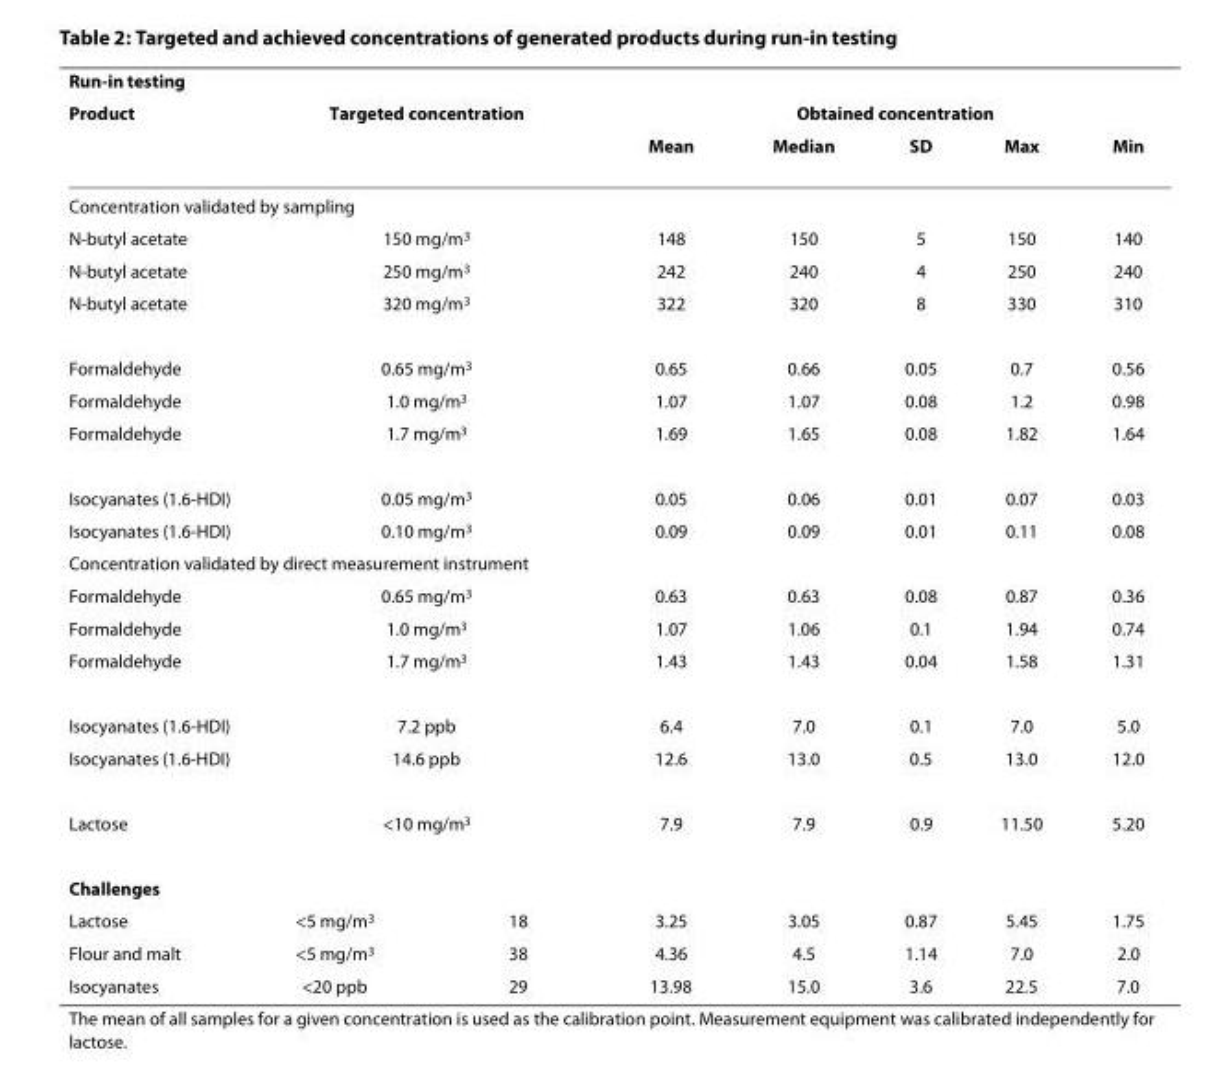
<table><thead><tr><td colspan="3">Run-in testing</td><td></td><td></td><td></td><td></td><td></td></tr><tr><td rowspan="2">Product</td><td colspan="2">Targeted concentration</td><td colspan="5">Obtained concentration</td></tr><tr><td></td><td></td><td>Mean</td><td>Median</td><td>SD</td><td>Max</td><td>Min</td></tr></thead><tbody><tr><td colspan="8">Concentration validated by sampling</td></tr><tr><td>N-butyl acetate</td><td colspan="2">150 mg/m<sup>3</sup></td><td>148</td><td>150</td><td>5</td><td>150</td><td>140</td></tr><tr><td>N-butyl acetate</td><td colspan="2">250 mg/m<sup>3</sup></td><td>242</td><td>240</td><td>4</td><td>250</td><td>240</td></tr><tr><td>N-butyl acetate</td><td colspan="2">320 mg/m<sup>3</sup></td><td>322</td><td>320</td><td>8</td><td>330</td><td>310</td></tr><tr><td>Formaldehyde</td><td colspan="2">0.65 mg/m<sup>3</sup></td><td>0.65</td><td>0.66</td><td>0.05</td><td>0.7</td><td>0.56</td></tr><tr><td>Formaldehyde</td><td colspan="2">1.0 mg/m<sup>3</sup></td><td>1.07</td><td>1.07</td><td>0.08</td><td>1.2</td><td>0.98</td></tr><tr><td>Formaldehyde</td><td colspan="2">1.7 mg/m<sup>3</sup></td><td>1.69</td><td>1.65</td><td>0.08</td><td>1.82</td><td>1.64</td></tr><tr><td>Isocyanates (1.6-HDI)</td><td colspan="2">0.05 mg/m<sup>3</sup></td><td>0.05</td><td>0.06</td><td>0.01</td><td>0.07</td><td>0.03</td></tr><tr><td>Isocyanates (1.6-HDI)</td><td colspan="2">0.10 mg/m<sup>3</sup></td><td>0.09</td><td>0.09</td><td>0.01</td><td>0.11</td><td>0.08</td></tr><tr><td colspan="8">Concentration validated by direct measurement instrument</td></tr><tr><td>Formaldehyde</td><td colspan="2">0.65 mg/m<sup>3</sup></td><td>0.63</td><td>0.63</td><td>0.08</td><td>0.87</td><td>0.36</td></tr><tr><td>Formaldehyde</td><td colspan="2">1.0 mg/m<sup>3</sup></td><td>1.07</td><td>1.06</td><td>0.1</td><td>1.94</td><td>0.74</td></tr><tr><td>Formaldehyde</td><td colspan="2">1.7 mg/m<sup>3</sup></td><td>1.43</td><td>1.43</td><td>0.04</td><td>1.58</td><td>1.31</td></tr><tr><td>Isocyanates (1.6-HDI)</td><td colspan="2">7.2 ppb</td><td>6.4</td><td>7.0</td><td>0.1</td><td>7.0</td><td>5.0</td></tr><tr><td>Isocyanates (1.6-HDI)</td><td colspan="2">14.6 ppb</td><td>12.6</td><td>13.0</td><td>0.5</td><td>13.0</td><td>12.0</td></tr><tr><td>Lactose</td><td colspan="2">&lt;10 mg/m<sup>3</sup></td><td>7.9</td><td>7.9</td><td>0.9</td><td>11.50</td><td>5.20</td></tr><tr><td colspan="8">Challenges</td></tr><tr><td>Lactose</td><td>&lt;5 mg/m<sup>3</sup></td><td>18</td><td>3.25</td><td>3.05</td><td>0.87</td><td>5.45</td><td>1.75</td></tr><tr><td>Flour and malt</td><td>&lt;5 mg/m<sup>3</sup></td><td>38</td><td>4.36</td><td>4.5</td><td>1.14</td><td>7.0</td><td>2.0</td></tr><tr><td>Isocyanates</td><td>&lt;20 ppb</td><td>29</td><td>13.98</td><td>15.0</td><td>3.6</td><td>22.5</td><td>7.0</td></tr></tbody></table>